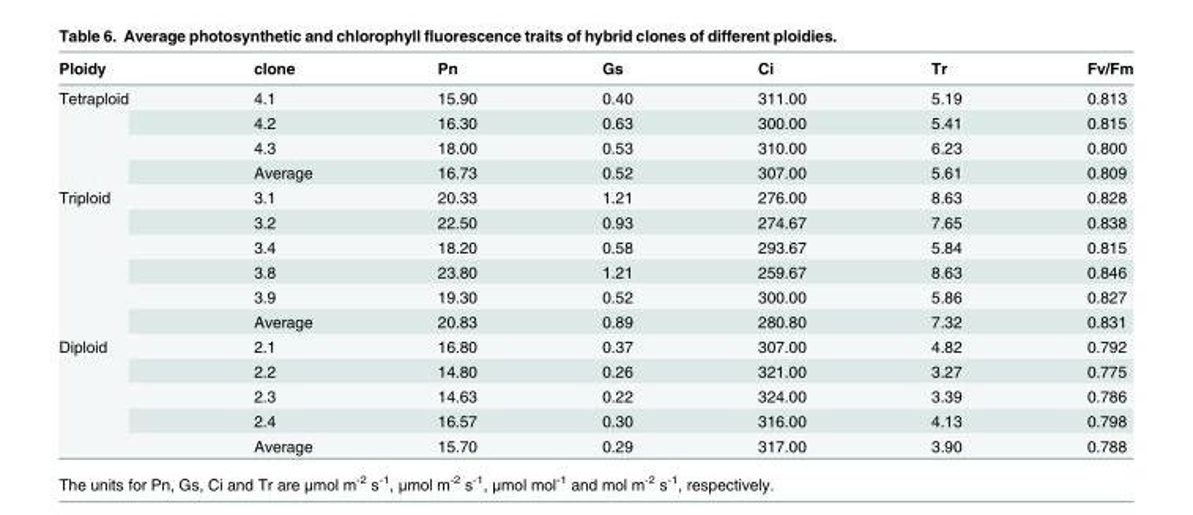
<table><thead><tr><td>Ploidy</td><td>clone</td><td>Pn</td><td>Gs</td><td>Ci</td><td>Tr</td><td>Fv/Fm</td></tr></thead><tbody><tr><td rowspan="4">Tetraploid</td><td>4.1</td><td>15.90</td><td>0.40</td><td>311.00</td><td>5.19</td><td>0.813</td></tr><tr><td>4.2</td><td>16.30</td><td>0.63</td><td>300.00</td><td>5.41</td><td>0.815</td></tr><tr><td>4.3</td><td>18.00</td><td>0.53</td><td>310.00</td><td>6.23</td><td>0.800</td></tr><tr><td>Average</td><td>16.73</td><td>0.52</td><td>307.00</td><td>5.61</td><td>0.809</td></tr><tr><td rowspan="6">Triploid</td><td>3.1</td><td>20.33</td><td>1.21</td><td>276.00</td><td>8.63</td><td>0.828</td></tr><tr><td>3.2</td><td>22.50</td><td>0.93</td><td>274.67</td><td>7.65</td><td>0.838</td></tr><tr><td>3.4</td><td>18.20</td><td>0.58</td><td>293.67</td><td>5.84</td><td>0.815</td></tr><tr><td>3.8</td><td>23.80</td><td>1.21</td><td>259.67</td><td>8.63</td><td>0.846</td></tr><tr><td>3.9</td><td>19.30</td><td>0.52</td><td>300.00</td><td>5.86</td><td>0.827</td></tr><tr><td>Average</td><td>20.83</td><td>0.89</td><td>280.80</td><td>7.32</td><td>0.831</td></tr><tr><td rowspan="5">Diploid</td><td>2.1</td><td>16.80</td><td>0.37</td><td>307.00</td><td>4.82</td><td>0.792</td></tr><tr><td>2.2</td><td>14.80</td><td>0.26</td><td>321.00</td><td>3.27</td><td>0.775</td></tr><tr><td>2.3</td><td>14.63</td><td>0.22</td><td>324.00</td><td>3.39</td><td>0.786</td></tr><tr><td>2.4</td><td>16.57</td><td>0.30</td><td>316.00</td><td>4.13</td><td>0.798</td></tr><tr><td>Average</td><td>15.70</td><td>0.29</td><td>317.00</td><td>3.90</td><td>0.788</td></tr></tbody></table>